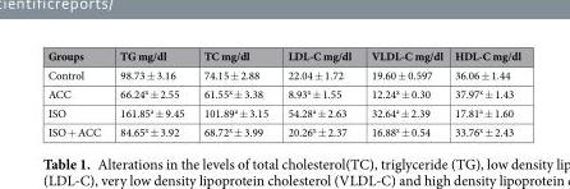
<table><thead><tr><td>Groups</td><td>TG mg/dl</td><td>TC mg/dl</td><td>LDL-C mg/dl</td><td>VLDL-C mg/dl</td><td>HDL-C mg/dl</td></tr></thead><tbody><tr><td>Control</td><td>98.73 ± 3.16</td><td>74.15 ± 2.88</td><td>22.04 ± 1.72</td><td>19.60 ± 0.597</td><td>36.06 ± 1.44</td></tr><tr><td>ACC</td><td>66.24<sup>x</sup> ± 2.55</td><td>61.55<sup>x</sup> ± 3.38</td><td>8.93<sup>x</sup> ± 1.55</td><td>12.24<sup>x</sup> ± 0.30</td><td>37.97<sup>x</sup> ± 1.43</td></tr><tr><td>ISO</td><td>161.85<sup>a</sup> ± 9.45</td><td>101.89<sup>a</sup> ± 3.15</td><td>54.28<sup>a</sup> ± 2.63</td><td>32.64<sup>a</sup> ± 2.39</td><td>17.81<sup>a</sup> ± 1.60</td></tr><tr><td>ISO + ACC</td><td>84.65<sup>x</sup> ± 3.92</td><td>68.72<sup>x</sup> ± 3.99</td><td>20.26<sup>x</sup> ± 2.37</td><td>16.88<sup>x</sup> ± 0.54</td><td>33.76<sup>x</sup> ± 2.43</td></tr></tbody></table>